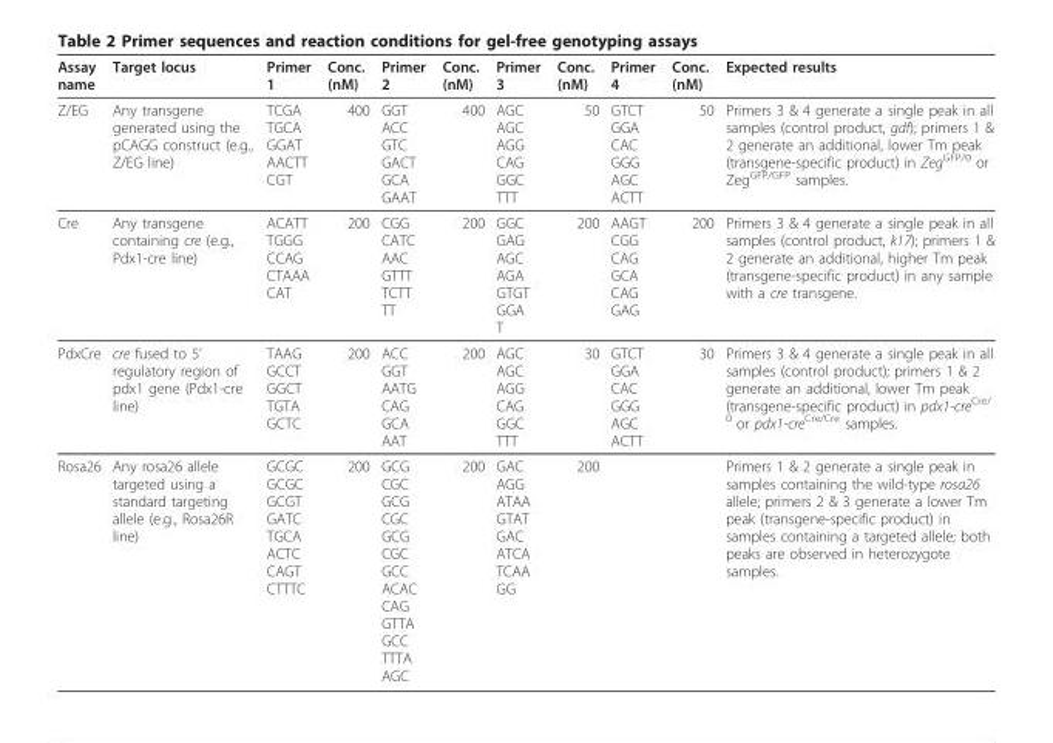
<table><thead><tr><td>Assay name</td><td>Target locus</td><td>Primer 1</td><td>Conc. (nM)</td><td>Primer 2</td><td>Conc. (nM)</td><td>Primer 3</td><td>Conc. (nM)</td><td>Primer 4</td><td>Conc. (nM)</td><td>Expected results</td></tr></thead><tbody><tr><td>Z/EG</td><td>Any transgene generated using the pCAGG construct (e.g., Z/EG line)</td><td>TCGA TGCA GGAT AACTT CGT</td><td>400</td><td>GGT ACC GTC GACT GCA GAAT</td><td>400</td><td>AGC AGC AGG CAG GGC TTT</td><td>50</td><td>GTCT GGA CAC GGG AGC ACTT</td><td>50</td><td>Primers 3 &amp; 4 generate a single peak in all samples (control product, gdf); primers 1 &amp; 2 generate an additional, lower Tm peak (transgene-specific product) in Zeg<sup>GFP/0</sup> or Zeg<sup>GFP/GFP</sup> samples.</td></tr><tr><td>Cre</td><td>Any transgene containing cre (e.g., Pdx1-cre line)</td><td>ACATT TGGG CCAG CTAAA CAT</td><td>200</td><td>CGG CATC AAC GTTT TCTT TT</td><td>200</td><td>GGC GAG AGC AGA GTGT GGA T</td><td>200</td><td>AAGT CGG CAG GCA CAG GAG</td><td>200</td><td>Primers 3 &amp; 4 generate a single peak in all samples (control product, k17); primers 1 &amp; 2 generate an additional, higher Tm peak (transgene-specific product) in any sample with a cre transgene.</td></tr><tr><td>PdxCre</td><td>cre fused to 5’ regulatory region of pdx1 gene (Pdx1-cre line)</td><td>TAAG GCCT GGCT TGTA GCTC</td><td>200</td><td>ACC GGT AATG CAG GCA AAT</td><td>200</td><td>AGC AGC AGG CAG GGC TTT</td><td>30</td><td>GTCT GGA CAC GGG AGC ACTT</td><td>30</td><td>Primers 3 &amp; 4 generate a single peak in all samples (control product); primers 1 &amp; 2 generate an additional, lower Tm peak (transgene-specific product) in pdx1-cre<sup>Cre/ 0</sup> or pdx1-cre<sup>Cre/Cre</sup> samples.</td></tr><tr><td>Rosa26</td><td>Any rosa26 allele targeted using a standard targeting allele (e.g., Rosa26R line)</td><td>GCGC GCGC GCGT GATC TGCA ACTC CAGT CTTTC</td><td>200</td><td>GCG CGC GCG CGC GCG CGC GCC ACAC CAG GTTA GCC TTTA AGC</td><td>200</td><td>GAC AGG ATAA GTAT GAC ATCA TCAA GG</td><td>200</td><td></td><td></td><td>Primers 1 &amp; 2 generate a single peak in samples containing the wild-type rosa26 allele; primers 2 &amp; 3 generate a lower Tm peak (transgene-specific product) in samples containing a targeted allele; both peaks are observed in heterozygote samples.</td></tr></tbody></table>